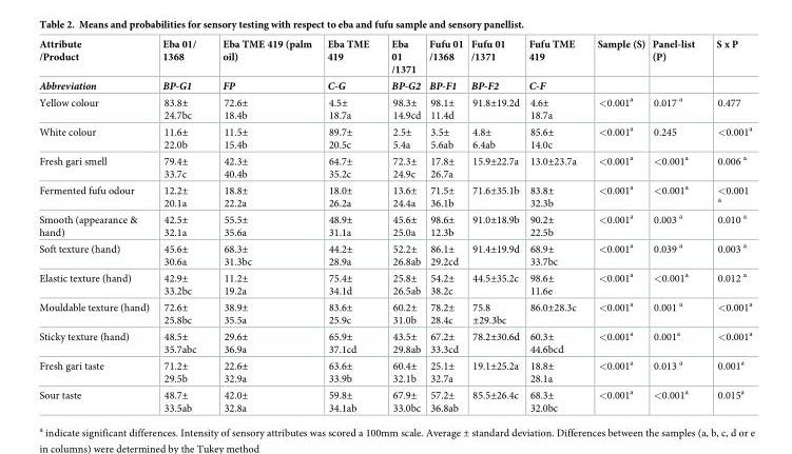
<table><thead><tr><td rowspan="2">Attribute /Product Abbreviation</td><td rowspan="2">Eba 01/ 1368 BP-G1</td><td rowspan="2">Eba TME 419 (palm oil) FP</td><td rowspan="2">Eba TME 419 C-G</td><td rowspan="2">Eba 01 /1371 BP-G2</td><td rowspan="2">Fufu 01 /1368 BP-F1</td><td rowspan="2">Fufu 01 /1371 BP-F2</td><td rowspan="2">Fufu TME 419 C-F</td><td rowspan="2">Sample (S)</td><td rowspan="2">Panel-list (P)</td><td rowspan="2">S x P</td></tr><tr></tr></thead><tbody><tr><td>Yellow colour</td><td>83.8± 24.7bc</td><td>72.6± 18.4b</td><td>4.5± 18.7a</td><td>98.3± 14.9cd</td><td>98.1± 11.4d</td><td>91.8±19.2d</td><td>4.6± 18.7a</td><td>&lt;0.001<sup>a</sup></td><td>0.017 <sup>a</sup></td><td>0.477</td></tr><tr><td>White colour</td><td>11.6± 22.0b</td><td>11.5± 15.4b</td><td>89.7± 20.5c</td><td>2.5± 5.4a</td><td>3.5± 5.6ab</td><td>4.8± 6.4ab</td><td>85.6± 14.0c</td><td>&lt;0.001<sup>a</sup></td><td>0.245</td><td>&lt;0.001<sup>a</sup></td></tr><tr><td>Fresh gari smell</td><td>79.4± 33.7c</td><td>42.3± 40.4b</td><td>64.7± 35.2c</td><td>72.3± 24.9c</td><td>17.8± 26.7a</td><td>15.9±22.7a</td><td>13.0±23.7a</td><td>&lt;0.001<sup>a</sup></td><td>&lt;0.001<sup>a</sup></td><td>0.006 <sup>a</sup></td></tr><tr><td>Fermented fufu odour</td><td>12.2± 20.1a</td><td>18.8± 22.2a</td><td>18.0± 26.2a</td><td>13.6± 24.4a</td><td>71.5± 36.1b</td><td>71.6±35.1b</td><td>83.8± 32.3b</td><td>&lt;0.001<sup>a</sup></td><td>&lt;0.001<sup>a</sup></td><td>&lt;0.001 <sup>a</sup></td></tr><tr><td>Smooth (appearance &amp; hand)</td><td>42.5± 32.1a</td><td>55.5± 35.6a</td><td>48.9± 31.1a</td><td>45.6± 25.0a</td><td>98.6± 12.3b</td><td>91.0±18.9b</td><td>90.2± 22.5b</td><td>&lt;0.001<sup>a</sup></td><td>0.003 <sup>a</sup></td><td>0.010 <sup>a</sup></td></tr><tr><td>Soft texture (hand)</td><td>45.6± 30.6a</td><td>68.3± 31.3bc</td><td>44.2± 28.9a</td><td>52.2± 26.8ab</td><td>86.1± 29.2cd</td><td>91.4±19.9d</td><td>68.9± 33.7bc</td><td>&lt;0.001<sup>a</sup></td><td>0.039 <sup>a</sup></td><td>0.003 <sup>a</sup></td></tr><tr><td>Elastic texture (hand)</td><td>42.9± 33.2bc</td><td>11.2± 19.2a</td><td>75.4± 34.1d</td><td>25.8± 26.5ab</td><td>54.2± 38.2c</td><td>44.5±35.2c</td><td>98.6± 11.6e</td><td>&lt;0.001<sup>a</sup></td><td>&lt;0.001<sup>a</sup></td><td>0.012 <sup>a</sup></td></tr><tr><td>Mouldable texture (hand)</td><td>72.6± 25.8bc</td><td>38.9± 35.5a</td><td>83.6± 25.9c</td><td>60.2± 31.0b</td><td>78.2± 28.4c</td><td>75.8 ±29.3bc</td><td>86.0±28.3c</td><td>&lt;0.001<sup>a</sup></td><td>0.001 <sup>a</sup></td><td>&lt;0.001<sup>a</sup></td></tr><tr><td>Sticky texture (hand)</td><td>48.5± 35.7abc</td><td>29.6± 36.9a</td><td>65.9± 37.1cd</td><td>43.5± 29.8ab</td><td>67.2± 33.3cd</td><td>78.2±30.6d</td><td>60.3± 44.6bcd</td><td>&lt;0.001<sup>a</sup></td><td>0.001<sup>a</sup></td><td>&lt;0.001<sup>a</sup></td></tr><tr><td>Fresh gari taste</td><td>71.2± 29.5b</td><td>22.6± 32.9a</td><td>63.6± 33.9b</td><td>60.4± 32.1b</td><td>25.1± 32.7a</td><td>19.1±25.2a</td><td>18.8± 28.1a</td><td>&lt;0.001<sup>a</sup></td><td>0.013 <sup>a</sup></td><td>0.001<sup>a</sup></td></tr><tr><td>Sour taste</td><td>48.7± 33.5ab</td><td>42.0± 32.8a</td><td>59.8± 34.1ab</td><td>67.9± 33.0bc</td><td>57.2± 36.8ab</td><td>85.5±26.4c</td><td>68.3± 32.0bc</td><td>&lt;0.001<sup>a</sup></td><td>&lt;0.001<sup>a</sup></td><td>0.015<sup>a</sup></td></tr></tbody></table>